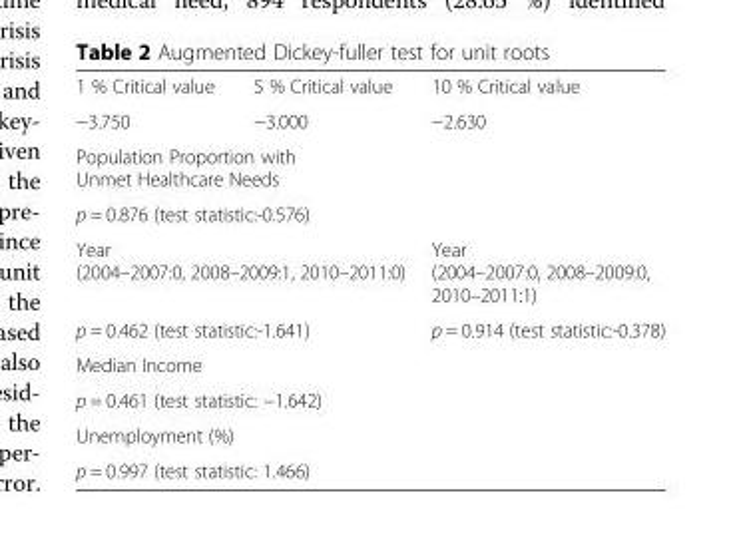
<table><tbody><tr><td>1 % Critical value</td><td>5 % Critical value</td><td>10 % Critical value</td></tr><tr><td>−3.750</td><td>−3.000</td><td>−2.630</td></tr><tr><td colspan="3">Population Proportion with Unmet Healthcare Needs</td></tr><tr><td colspan="3">p = 0.876 (test statistic:-0.576)</td></tr><tr><td colspan="2">Year (2004–2007:0, 2008–2009:1, 2010–2011:0)</td><td>Year (2004–2007:0, 2008–2009:0, 2010–2011:1)</td></tr><tr><td colspan="2">p = 0.462 (test statistic:-1.641)</td><td>p = 0.914 (test statistic:-0.378)</td></tr><tr><td colspan="3">Median Income</td></tr><tr><td colspan="3">p = 0.461 (test statistic: −1.642)</td></tr><tr><td colspan="3">Unemployment (%)</td></tr><tr><td colspan="3">p = 0.997 (test statistic: 1.466)</td></tr></tbody></table>